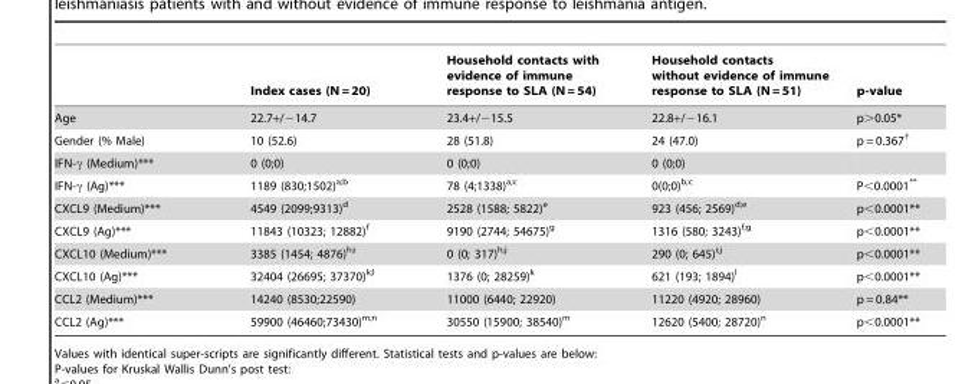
<table><thead><tr><td></td><td>Index cases (N = 20)</td><td>Household contacts with evidence of immune response to SLA (N = 54)</td><td>Household contacts without evidence of immune response to SLA (N = 51)</td><td>p-value</td></tr></thead><tbody><tr><td>Age</td><td>22.7+/−14.7</td><td>23.4+/−15.5</td><td>22.8+/−16.1</td><td>p&gt;0.05*</td></tr><tr><td>Gender (% Male)</td><td>10 (52.6)</td><td>28 (51.8)</td><td>24 (47.0)</td><td>p = 0.367<sup>†</sup></td></tr><tr><td>IFN-γ (Medium)***</td><td>0 (0;0)</td><td>0 (0;0)</td><td>0 (0;0)</td><td></td></tr><tr><td>IFN-γ (Ag)***</td><td>1189 (830;1502)<sup>a;</sup>b</td><td>78 (4;1338)<sup>a;</sup>c</td><td>0(0;0)<sup>b;</sup>c</td><td>P&lt;0.0001**</td></tr><tr><td>CXCL9 (Medium)***</td><td>4549 (2099;9313)<sup>d</sup></td><td>2528 (1588; 5822)<sup>e</sup></td><td>923 (456; 2569)<sup>d;</sup>e</td><td>p&lt;0.0001**</td></tr><tr><td>CXCL9 (Ag)***</td><td>11843 (10323; 12882)<sup>f</sup></td><td>9190 (2744; 54675)<sup>g</sup></td><td>1316 (580; 3243)<sup>f;</sup>g</td><td>p&lt;0.0001**</td></tr><tr><td>CXCL10 (Medium)***</td><td>3385 (1454; 4876)<sup>h;</sup>i</td><td>0 (0; 317)<sup>h;</sup>j</td><td>290 (0; 645)<sup>i;</sup>j</td><td>p&lt;0.0001**</td></tr><tr><td>CXCL10 (Ag)***</td><td>32404 (26695; 37370)<sup>k;</sup>l</td><td>1376 (0; 28259)<sup>k</sup></td><td>621 (193; 1894)<sup>l</sup></td><td>p&lt;0.0001**</td></tr><tr><td>CCL2 (Medium)***</td><td>14240 (8530;22590)</td><td>11000 (6440; 22920)</td><td>11220 (4920; 28960)</td><td>p = 0.84**</td></tr><tr><td>CCL2 (Ag)***</td><td>59900 (46460;73430)<sup>m;</sup>n</td><td>30550 (15900; 38540)<sup>m</sup></td><td>12620 (5400; 28720)<sup>n</sup></td><td>p&lt;0.0001**</td></tr></tbody></table>